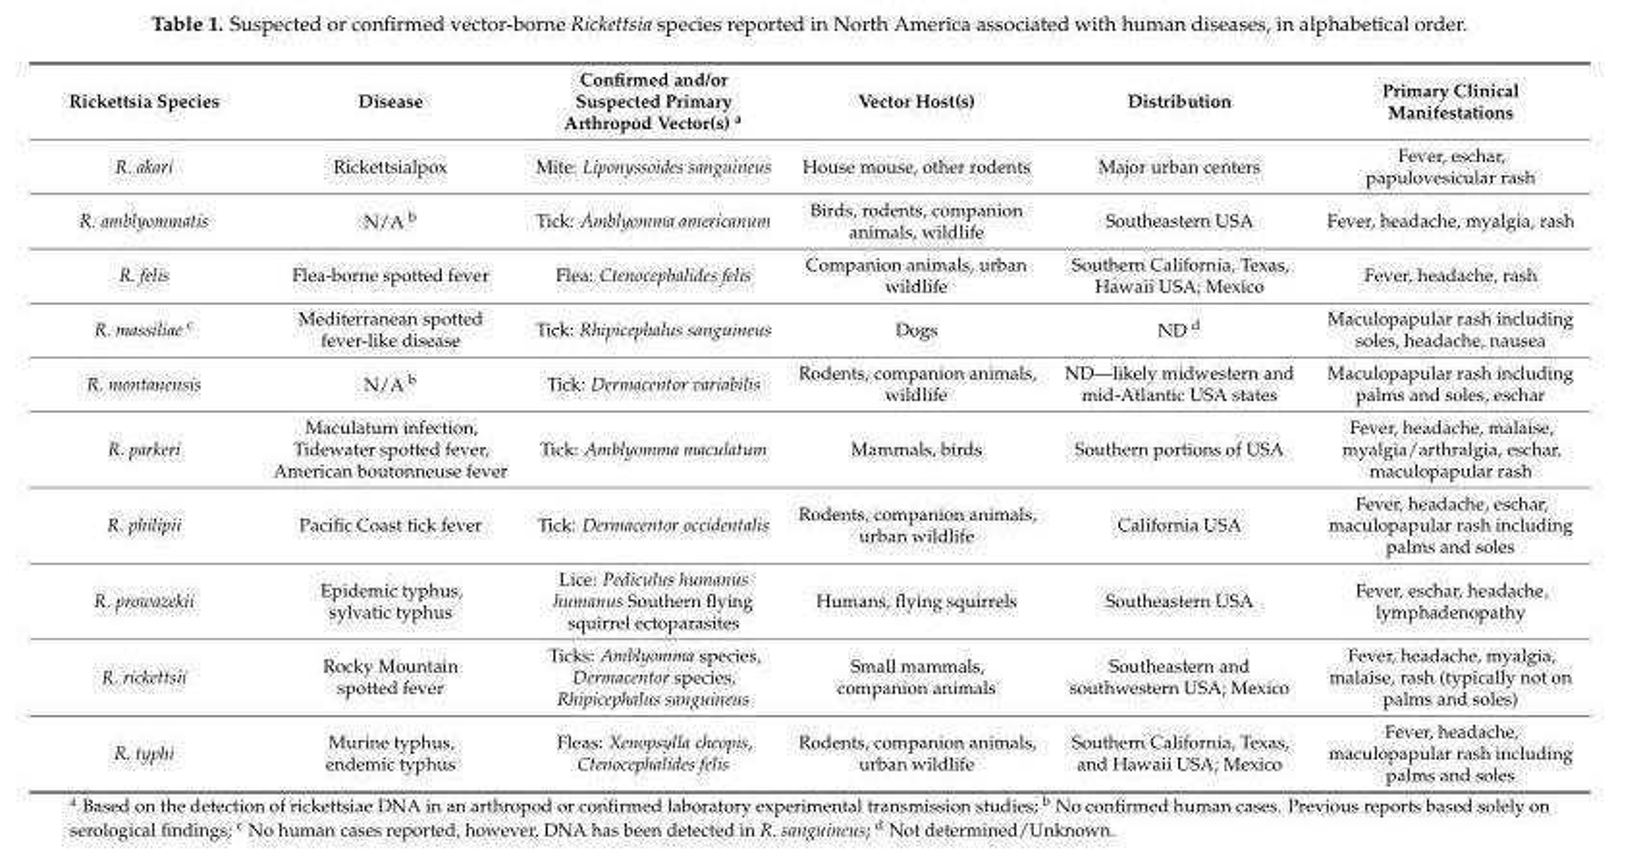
<table><thead><tr><td>Rickettsia Species</td><td>Disease</td><td>Confirmed and/or Suspected Primary Arthropod Vector(s) <sup>a</sup></td><td>Vector Host(s)</td><td>Distribution</td><td>Primary Clinical Manifestations</td></tr></thead><tbody><tr><td>R. akari</td><td>Rickettsialpox</td><td>Mite: Liponyssoides sanguineus</td><td>House mouse, other rodents</td><td>Major urban centers</td><td>Fever, eschar, papulovesicular rash</td></tr><tr><td>R. amblyommatis</td><td>N/A <sup>b</sup></td><td>Tick: Amblyomma americanum</td><td>Birds, rodents, companion animals, wildlife</td><td>Southeastern USA</td><td>Fever, headache, myalgia, rash</td></tr><tr><td>R. felis</td><td>Flea-borne spotted fever</td><td>Flea: Ctenocephalides felis</td><td>Companion animals, urban wildlife</td><td>Southern California, Texas, Hawaii USA; Mexico</td><td>Fever, headache, rash</td></tr><tr><td>R. massiliae <sup>c</sup></td><td>Mediterranean spotted fever-like disease</td><td>Tick: Rhipicephalus sanguineus</td><td>Dogs</td><td>ND <sup>d</sup></td><td>Maculopapular rash including soles, headache, nausea</td></tr><tr><td>R. montanensis</td><td>N/A <sup>b</sup></td><td>Tick: Dermacentor variabilis</td><td>Rodents, companion animals, wildlife</td><td>ND—likely midwestern and mid-Atlantic USA states</td><td>Maculopapular rash including palms and soles, eschar</td></tr><tr><td>R. parkeri</td><td>Maculatum infection, Tidewater spotted fever, American boutonneuse fever</td><td>Tick: Amblyomma maculatum</td><td>Mammals, birds</td><td>Southern portions of USA</td><td>Fever, headache, malaise, myalgia/arthralgia, eschar, maculopapular rash</td></tr><tr><td>R. philipii</td><td>Pacific Coast tick fever</td><td>Tick: Dermacentor occidentalis</td><td>Rodents, companion animals, urban wildlife</td><td>California USA</td><td>Fever, headache, eschar, maculopapular rash including palms and soles</td></tr><tr><td>R. prowazekii</td><td>Epidemic typhus, sylvatic typhus</td><td>Lice: Pediculus humanus humanus Southern flying squirrel ectoparasites</td><td>Humans, flying squirrels</td><td>Southeastern USA</td><td>Fever, eschar, headache, lymphadenopathy</td></tr><tr><td>R. rickettsii</td><td>Rocky Mountain spotted fever</td><td>Ticks: Amblyomma species, Dermacentor species, Rhipicephalus sanguineus</td><td>Small mammals, companion animals</td><td>Southeastern and southwestern USA; Mexico</td><td>Fever, headache, myalgia, malaise, rash (typically not on palms and soles)</td></tr><tr><td>R. typhi</td><td>Murine typhus, endemic typhus</td><td>Fleas: Xenopsylla cheopis, Ctenocephalides felis</td><td>Rodents, companion animals, urban wildlife</td><td>Southern California, Texas, and Hawaii USA; Mexico</td><td>Fever, headache, maculopapular rash including palms and soles</td></tr></tbody></table>